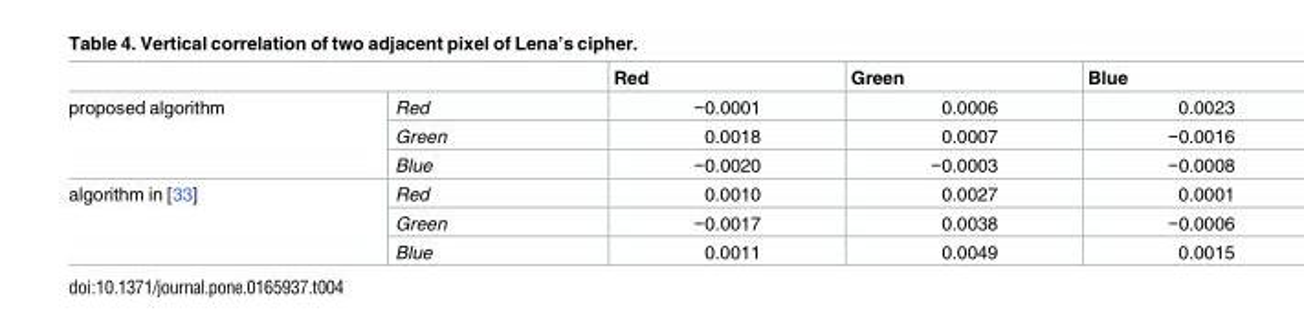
<table><thead><tr><td></td><td></td><td>Red</td><td>Green</td><td>Blue</td></tr></thead><tbody><tr><td rowspan="3">proposed algorithm</td><td>Red</td><td>−0.0001</td><td>0.0006</td><td>0.0023</td></tr><tr><td>Green</td><td>0.0018</td><td>0.0007</td><td>−0.0016</td></tr><tr><td>Blue</td><td>−0.0020</td><td>−0.0003</td><td>−0.0008</td></tr><tr><td rowspan="3">algorithm in [33]</td><td>Red</td><td>0.0010</td><td>0.0027</td><td>0.0001</td></tr><tr><td>Green</td><td>−0.0017</td><td>0.0038</td><td>−0.0006</td></tr><tr><td>Blue</td><td>0.0011</td><td>0.0049</td><td>0.0015</td></tr></tbody></table>